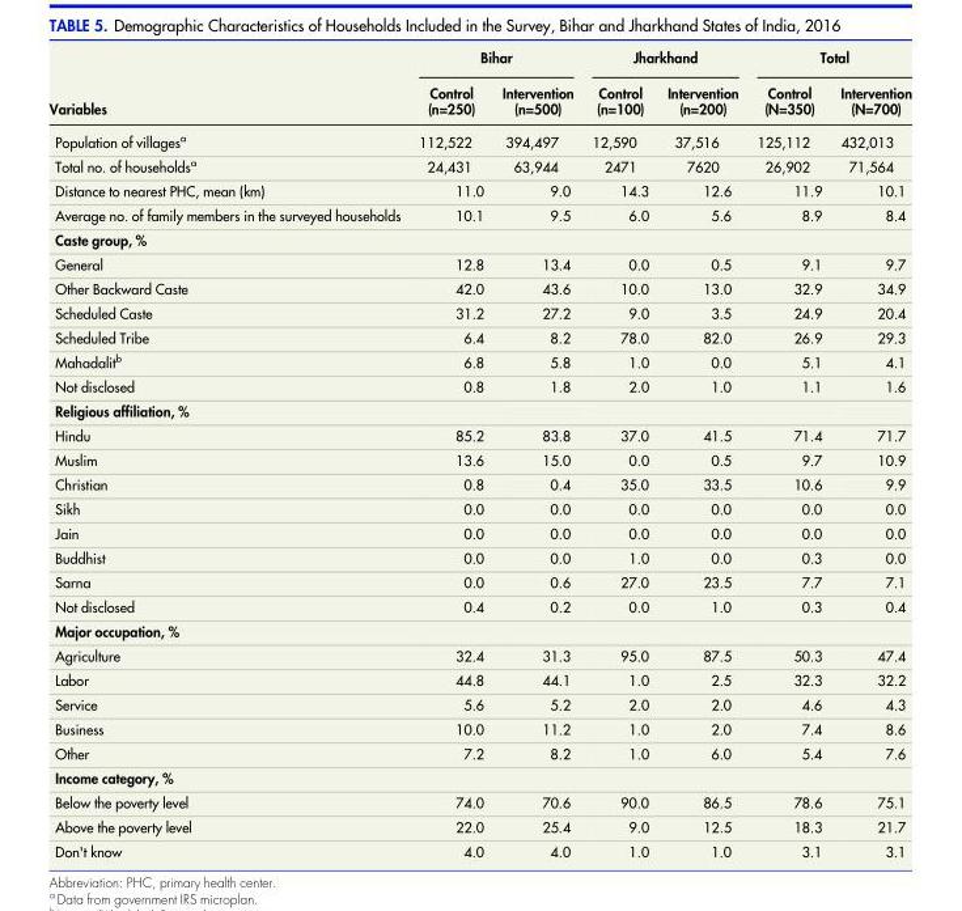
<table><thead><tr><td rowspan="2">Variables</td><td colspan="2">Bihar</td><td colspan="2">Jharkhand</td><td colspan="2">Total</td></tr><tr><td>Control (n=250)</td><td>Intervention (n=500)</td><td>Control (n=100)</td><td>Intervention (n=200)</td><td>Control (N=350)</td><td>Intervention (N=700)</td></tr></thead><tbody><tr><td>Population of villages<sup>a</sup></td><td>112,522</td><td>394,497</td><td>12,590</td><td>37,516</td><td>125,112</td><td>432,013</td></tr><tr><td>Total no. of households<sup>a</sup></td><td>24,431</td><td>63,944</td><td>2471</td><td>7620</td><td>26,902</td><td>71,564</td></tr><tr><td>Distance to nearest PHC, mean (km)</td><td>11.0</td><td>9.0</td><td>14.3</td><td>12.6</td><td>11.9</td><td>10.1</td></tr><tr><td>Average no. of family members in the surveyed households</td><td>10.1</td><td>9.5</td><td>6.0</td><td>5.6</td><td>8.9</td><td>8.4</td></tr><tr><td colspan="7">Caste group, %</td></tr><tr><td>General</td><td>12.8</td><td>13.4</td><td>0.0</td><td>0.5</td><td>9.1</td><td>9.7</td></tr><tr><td>Other Backward Caste</td><td>42.0</td><td>43.6</td><td>10.0</td><td>13.0</td><td>32.9</td><td>34.9</td></tr><tr><td>Scheduled Caste</td><td>31.2</td><td>27.2</td><td>9.0</td><td>3.5</td><td>24.9</td><td>20.4</td></tr><tr><td>Scheduled Tribe</td><td>6.4</td><td>8.2</td><td>78.0</td><td>82.0</td><td>26.9</td><td>29.3</td></tr><tr><td>Mahadalit<sup>b</sup></td><td>6.8</td><td>5.8</td><td>1.0</td><td>0.0</td><td>5.1</td><td>4.1</td></tr><tr><td>Not disclosed</td><td>0.8</td><td>1.8</td><td>2.0</td><td>1.0</td><td>1.1</td><td>1.6</td></tr><tr><td colspan="7">Religious affiliation, %</td></tr><tr><td>Hindu</td><td>85.2</td><td>83.8</td><td>37.0</td><td>41.5</td><td>71.4</td><td>71.7</td></tr><tr><td>Muslim</td><td>13.6</td><td>15.0</td><td>0.0</td><td>0.5</td><td>9.7</td><td>10.9</td></tr><tr><td>Christian</td><td>0.8</td><td>0.4</td><td>35.0</td><td>33.5</td><td>10.6</td><td>9.9</td></tr><tr><td>Sikh</td><td>0.0</td><td>0.0</td><td>0.0</td><td>0.0</td><td>0.0</td><td>0.0</td></tr><tr><td>Jain</td><td>0.0</td><td>0.0</td><td>0.0</td><td>0.0</td><td>0.0</td><td>0.0</td></tr><tr><td>Buddhist</td><td>0.0</td><td>0.0</td><td>1.0</td><td>0.0</td><td>0.3</td><td>0.0</td></tr><tr><td>Sarna</td><td>0.0</td><td>0.6</td><td>27.0</td><td>23.5</td><td>7.7</td><td>7.1</td></tr><tr><td>Not disclosed</td><td>0.4</td><td>0.2</td><td>0.0</td><td>1.0</td><td>0.3</td><td>0.4</td></tr><tr><td colspan="7">Major occupation, %</td></tr><tr><td>Agriculture</td><td>32.4</td><td>31.3</td><td>95.0</td><td>87.5</td><td>50.3</td><td>47.4</td></tr><tr><td>Labor</td><td>44.8</td><td>44.1</td><td>1.0</td><td>2.5</td><td>32.3</td><td>32.2</td></tr><tr><td>Service</td><td>5.6</td><td>5.2</td><td>2.0</td><td>2.0</td><td>4.6</td><td>4.3</td></tr><tr><td>Business</td><td>10.0</td><td>11.2</td><td>1.0</td><td>2.0</td><td>7.4</td><td>8.6</td></tr><tr><td>Other</td><td>7.2</td><td>8.2</td><td>1.0</td><td>6.0</td><td>5.4</td><td>7.6</td></tr><tr><td colspan="7">Income category, %</td></tr><tr><td>Below the poverty level</td><td>74.0</td><td>70.6</td><td>90.0</td><td>86.5</td><td>78.6</td><td>75.1</td></tr><tr><td>Above the poverty level</td><td>22.0</td><td>25.4</td><td>9.0</td><td>12.5</td><td>18.3</td><td>21.7</td></tr><tr><td>Don&#x27;t know</td><td>4.0</td><td>4.0</td><td>1.0</td><td>1.0</td><td>3.1</td><td>3.1</td></tr></tbody></table>